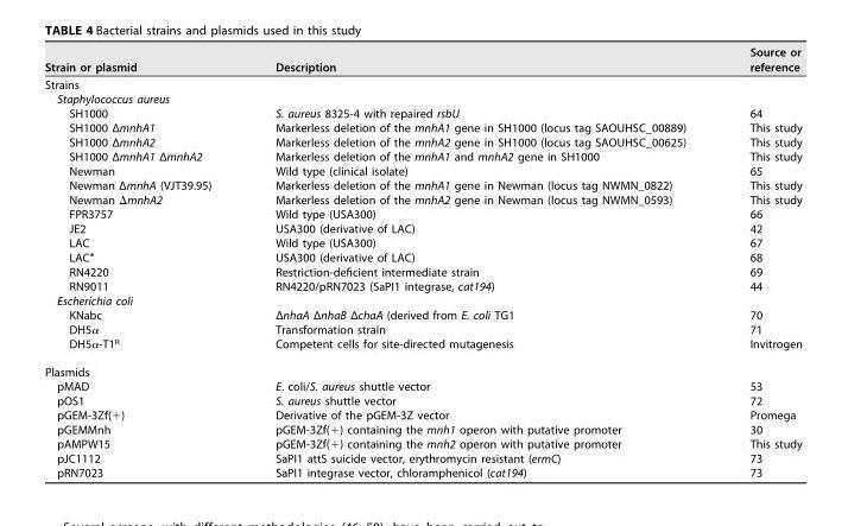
<table><thead><tr><td>Strain or plasmid</td><td>Description</td><td>Source or reference</td></tr></thead><tbody><tr><td colspan="3">Strains</td></tr><tr><td colspan="3">Staphylococcus aureus</td></tr><tr><td>SH1000</td><td>S. aureus 8325-4 with repaired rsbU</td><td>64</td></tr><tr><td>SH1000 ΔmnhA1</td><td>Markerless deletion of the mnhA1 gene in SH1000 (locus tag SAOUHSC_00889)</td><td>This study</td></tr><tr><td>SH1000 ΔmnhA2</td><td>Markerless deletion of the mnhA2 gene in SH1000 (locus tag SAOUHSC_00625)</td><td>This study</td></tr><tr><td>SH1000 ΔmnhA1 ΔmnhA2</td><td>Markerless deletion of the mnhA1 and mnhA2 gene in SH1000</td><td>This study</td></tr><tr><td>Newman</td><td>Wild type (clinical isolate)</td><td>65</td></tr><tr><td>Newman ΔmnhA (VJT39.95)</td><td>Markerless deletion of the mnhA1 gene in Newman (locus tag NWMN_0822)</td><td>This study</td></tr><tr><td>Newman ΔmnhA2</td><td>Markerless deletion of the mnhA2 gene in Newman (locus tag NWMN_0593)</td><td>This study</td></tr><tr><td>FPR3757</td><td>Wild type (USA300)</td><td>66</td></tr><tr><td>JE2</td><td>USA300 (derivative of LAC)</td><td>42</td></tr><tr><td>LAC</td><td>Wild type (USA300)</td><td>67</td></tr><tr><td>LAC*</td><td>USA300 (derivative of LAC)</td><td>68</td></tr><tr><td>RN4220</td><td>Restriction-deficient intermediate strain</td><td>69</td></tr><tr><td>RN9011</td><td>RN4220/pRN7023 (SaPI1 integrase, cat194)</td><td>44</td></tr><tr><td colspan="3">Escherichia coli</td></tr><tr><td>KNabc</td><td>ΔnhaA ΔnhaB ΔchaA (derived from E. coli TG1</td><td>70</td></tr><tr><td>DH5α</td><td>Transformation strain</td><td>71</td></tr><tr><td>DH5α-T1<sup>R</sup></td><td>Competent cells for site-directed mutagenesis</td><td>Invitrogen</td></tr><tr><td colspan="3">Plasmids</td></tr><tr><td>pMAD</td><td>E. coli/S. aureus shuttle vector</td><td>53</td></tr><tr><td>pOS1</td><td>S. aureus shuttle vector</td><td>72</td></tr><tr><td>pGEM-3Zf(+)</td><td>Derivative of the pGEM-3Z vector</td><td>Promega</td></tr><tr><td>pGEMMnh</td><td>pGEM-3Zf(+) containing the mnh1 operon with putative promoter</td><td>30</td></tr><tr><td>pAMPW15</td><td>pGEM-3Zf(+) containing the mnh2 operon with putative promoter</td><td>This study</td></tr><tr><td>pJC1112</td><td>SaPI1 attS suicide vector, erythromycin resistant (ermC)</td><td>73</td></tr><tr><td>pRN7023</td><td>SaPI1 integrase vector, chloramphenicol (cat194)</td><td>73</td></tr></tbody></table>